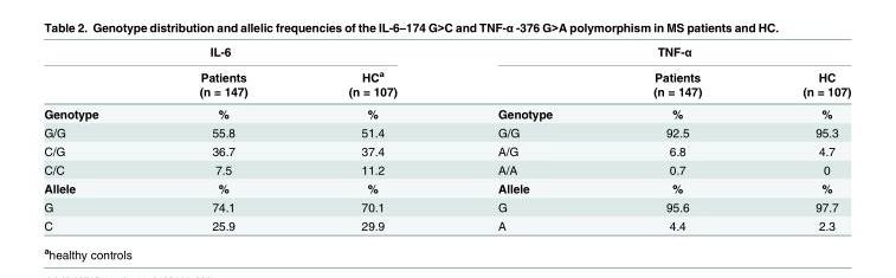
<table><thead><tr><td colspan="3">IL-6</td><td colspan="3">TNF-α</td></tr><tr><td rowspan="2"></td><td rowspan="2">Patients (n = 147)</td><td rowspan="2">HC<sup>a</sup> (n = 107)</td><td rowspan="2"></td><td rowspan="2">Patients (n = 147)</td><td rowspan="2">HC (n = 107)</td></tr><tr></tr></thead><tbody><tr><td>Genotype</td><td>%</td><td>%</td><td>Genotype</td><td>%</td><td>%</td></tr><tr><td>G/G</td><td>55.8</td><td>51.4</td><td>G/G</td><td>92.5</td><td>95.3</td></tr><tr><td>C/G</td><td>36.7</td><td>37.4</td><td>A/G</td><td>6.8</td><td>4.7</td></tr><tr><td>C/C</td><td>7.5</td><td>11.2</td><td>A/A</td><td>0.7</td><td>0</td></tr><tr><td>Allele</td><td>%</td><td>%</td><td>Allele</td><td>%</td><td>%</td></tr><tr><td>G</td><td>74.1</td><td>70.1</td><td>G</td><td>95.6</td><td>97.7</td></tr><tr><td>C</td><td>25.9</td><td>29.9</td><td>A</td><td>4.4</td><td>2.3</td></tr></tbody></table>